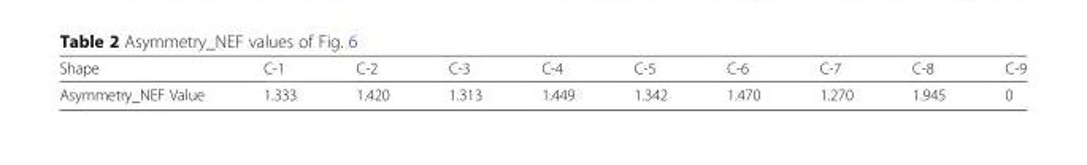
<table><thead><tr><td>Shape</td><td>C-1</td><td>C-2</td><td>C-3</td><td>C-4</td><td>C-5</td><td>C-6</td><td>C-7</td><td>C-8</td><td>C-9</td></tr></thead><tbody><tr><td>Asymmetry_NEF Value</td><td>1.333</td><td>1.420</td><td>1.313</td><td>1.449</td><td>1.342</td><td>1.470</td><td>1.270</td><td>1.945</td><td>0</td></tr></tbody></table>